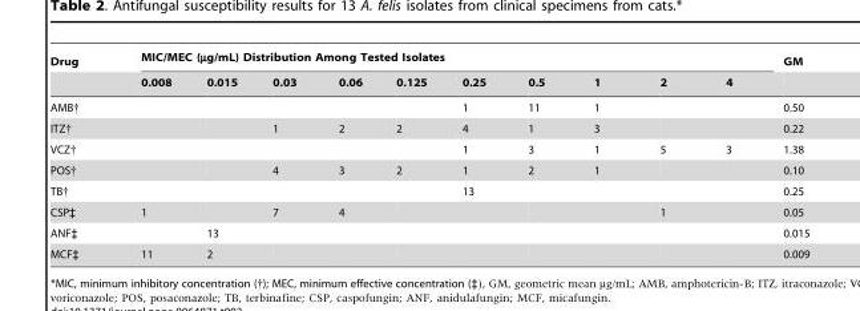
<table><thead><tr><td rowspan="2">Drug</td><td colspan="10">MIC/MEC (µg/mL) Distribution Among Tested Isolates</td><td rowspan="2">GM</td></tr><tr><td>0.008</td><td>0.015</td><td>0.03</td><td>0.06</td><td>0.125</td><td>0.25</td><td>0.5</td><td>1</td><td>2</td><td>4</td></tr></thead><tbody><tr><td>AMB†</td><td></td><td></td><td></td><td></td><td></td><td>1</td><td>11</td><td>1</td><td></td><td></td><td>0.50</td></tr><tr><td>ITZ†</td><td></td><td></td><td>1</td><td>2</td><td>2</td><td>4</td><td>1</td><td>3</td><td></td><td></td><td>0.22</td></tr><tr><td>VCZ†</td><td></td><td></td><td></td><td></td><td></td><td>1</td><td>3</td><td>1</td><td>5</td><td>3</td><td>1.38</td></tr><tr><td>POS†</td><td></td><td></td><td>4</td><td>3</td><td>2</td><td>1</td><td>2</td><td>1</td><td></td><td></td><td>0.10</td></tr><tr><td>TB†</td><td></td><td></td><td></td><td></td><td></td><td>13</td><td></td><td></td><td></td><td></td><td>0.25</td></tr><tr><td>CSP‡</td><td>1</td><td></td><td>7</td><td>4</td><td></td><td></td><td></td><td></td><td>1</td><td></td><td>0.05</td></tr><tr><td>ANF‡</td><td></td><td>13</td><td></td><td></td><td></td><td></td><td></td><td></td><td></td><td></td><td>0.015</td></tr><tr><td>MCF‡</td><td>11</td><td>2</td><td></td><td></td><td></td><td></td><td></td><td></td><td></td><td></td><td>0.009</td></tr></tbody></table>